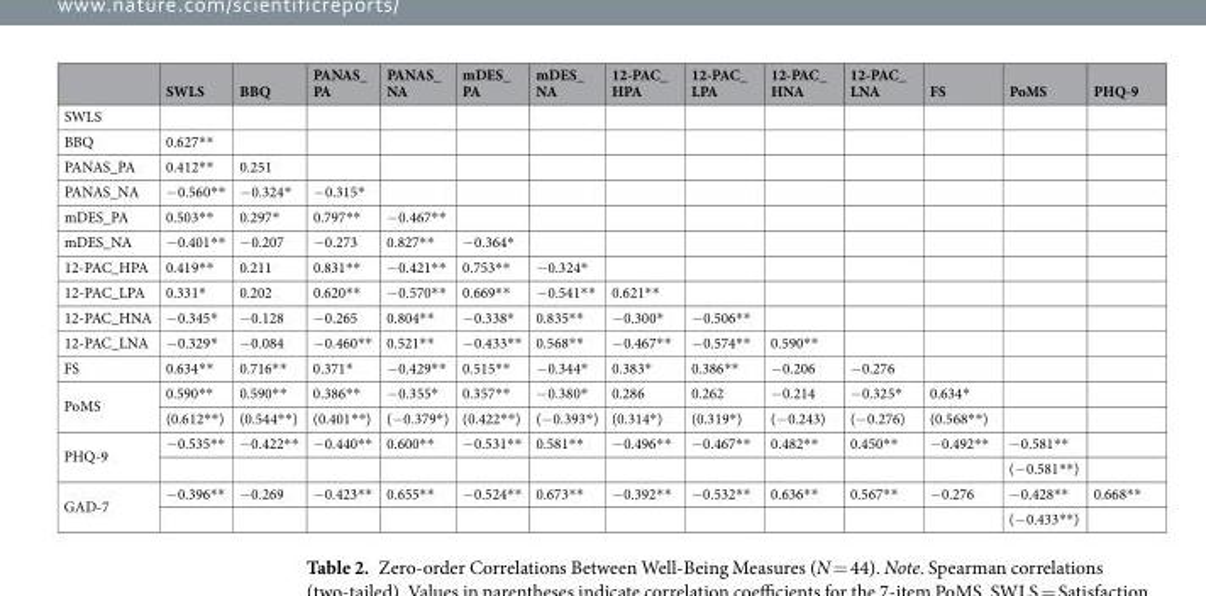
<table><thead><tr><td></td><td>SWLS</td><td>BBQ</td><td>PANAS_ PA</td><td>PANAS_ NA</td><td>mDES_ PA</td><td>mDES_ NA</td><td>12-PAC_ HPA</td><td>12-PAC_ LPA</td><td>12-PAC_ HNA</td><td>12-PAC_ LNA</td><td>FS</td><td>PoMS</td><td>PHQ-9</td></tr></thead><tbody><tr><td colspan="14">SWLS</td></tr><tr><td>BBQ</td><td>0.627**</td><td></td><td></td><td></td><td></td><td></td><td></td><td></td><td></td><td></td><td></td><td></td><td></td></tr><tr><td>PANAS_PA</td><td>0.412**</td><td>0.251</td><td></td><td></td><td></td><td></td><td></td><td></td><td></td><td></td><td></td><td></td><td></td></tr><tr><td>PANAS_NA</td><td>−0.560**</td><td>−0.324*</td><td>−0.315*</td><td></td><td></td><td></td><td></td><td></td><td></td><td></td><td></td><td></td><td></td></tr><tr><td>mDES_PA</td><td>0.503**</td><td>0.297*</td><td>0.797**</td><td>−0.467**</td><td></td><td></td><td></td><td></td><td></td><td></td><td></td><td></td><td></td></tr><tr><td>mDES_NA</td><td>−0.401**</td><td>−0.207</td><td>−0.273</td><td>0.827**</td><td>−0.364*</td><td></td><td></td><td></td><td></td><td></td><td></td><td></td><td></td></tr><tr><td>12-PAC_HPA</td><td>0.419**</td><td>0.211</td><td>0.831**</td><td>−0.421**</td><td>0.753**</td><td>−0.324*</td><td></td><td></td><td></td><td></td><td></td><td></td><td></td></tr><tr><td>12-PAC_LPA</td><td>0.331*</td><td>0.202</td><td>0.620**</td><td>−0.570**</td><td>0.669**</td><td>−0.541**</td><td>0.621**</td><td></td><td></td><td></td><td></td><td></td><td></td></tr><tr><td>12-PAC_HNA</td><td>−0.345*</td><td>−0.128</td><td>−0.265</td><td>0.804**</td><td>−0.338*</td><td>0.835**</td><td>−0.300*</td><td>−0.506**</td><td></td><td></td><td></td><td></td><td></td></tr><tr><td>12-PAC_LNA</td><td>−0.329*</td><td>−0.084</td><td>−0.460**</td><td>0.521**</td><td>−0.433**</td><td>0.568**</td><td>−0.467**</td><td>−0.574**</td><td>0.590**</td><td></td><td></td><td></td><td></td></tr><tr><td>FS</td><td>0.634**</td><td>0.716**</td><td>0.371*</td><td>−0.429**</td><td>0.515**</td><td>−0.344*</td><td>0.383*</td><td>0.386**</td><td>−0.206</td><td>−0.276</td><td></td><td></td><td></td></tr><tr><td rowspan="2">PoMS</td><td>0.590**</td><td>0.590**</td><td>0.386**</td><td>−0.355*</td><td>0.357**</td><td>−0.380*</td><td>0.286</td><td>0.262</td><td>−0.214</td><td>−0.325*</td><td>0.634*</td><td></td><td></td></tr><tr><td>(0.612**)</td><td>(0.544**)</td><td>(0.401**)</td><td>(−0.379*)</td><td>(0.422**)</td><td>(−0.393*)</td><td>(0.314*)</td><td>(0.319*)</td><td>(−0.243)</td><td>(−0.276)</td><td>(0.568**)</td><td></td><td></td></tr><tr><td rowspan="2">PHQ-9</td><td>−0.535**</td><td>−0.422**</td><td>−0.440**</td><td>0.600**</td><td>−0.531**</td><td>0.581**</td><td>−0.496**</td><td>−0.467**</td><td>0.482**</td><td>0.450**</td><td>−0.492**</td><td>−0.581**</td><td></td></tr><tr><td></td><td></td><td></td><td></td><td></td><td></td><td></td><td></td><td></td><td></td><td></td><td>(−0.581**)</td><td></td></tr><tr><td rowspan="2">GAD-7</td><td>−0.396**</td><td>−0.269</td><td>−0.423**</td><td>0.655**</td><td>−0.524**</td><td>0.673**</td><td>−0.392**</td><td>−0.532**</td><td>0.636**</td><td>0.567**</td><td>−0.276</td><td>−0.428**</td><td>0.668**</td></tr><tr><td></td><td></td><td></td><td></td><td></td><td></td><td></td><td></td><td></td><td></td><td></td><td>(−0.433**)</td><td></td></tr></tbody></table>